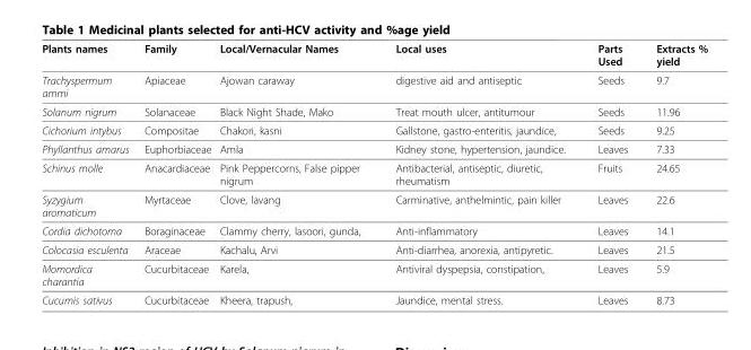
<table><thead><tr><td>Plants names</td><td>Family</td><td>Local/Vernacular Names</td><td>Local uses</td><td>Parts Used</td><td>Extracts % yield</td></tr></thead><tbody><tr><td>Trachyspermum ammi</td><td>Apiaceae</td><td>Ajowan caraway</td><td>digestive aid and antiseptic</td><td>Seeds</td><td>9.7</td></tr><tr><td>Solanum nigrum</td><td>Solanaceae</td><td>Black Night Shade, Mako</td><td>Treat mouth ulcer, antitumour</td><td>Seeds</td><td>11.96</td></tr><tr><td>Cichorium intybus</td><td>Compositae</td><td>Chakori, kasni</td><td>Gallstone, gastro-enteritis, jaundice,</td><td>Seeds</td><td>9.25</td></tr><tr><td>Phyllanthus amarus</td><td>Euphorbiaceae</td><td>Amla</td><td>Kidney stone, hypertension, jaundice.</td><td>Leaves</td><td>7.33</td></tr><tr><td>Schinus molle</td><td>Anacardiaceae</td><td>Pink Peppercorns, False pipper nigrum</td><td>Antibacterial, antiseptic, diuretic, rheumatism</td><td>Fruits</td><td>24.65</td></tr><tr><td>Syzygium aromaticum</td><td>Myrtaceae</td><td>Clove, lavang</td><td>Carminative, anthelmintic, pain killer</td><td>Leaves</td><td>22.6</td></tr><tr><td>Cordia dichotoma</td><td>Boraginaceae</td><td>Clammy cherry, lasoori, gunda,</td><td>Anti-inflammatory</td><td>Leaves</td><td>14.1</td></tr><tr><td>Colocasia esculenta</td><td>Araceae</td><td>Kachalu, Arvi</td><td>Anti-diarrhea, anorexia, antipyretic.</td><td>Leaves</td><td>21.5</td></tr><tr><td>Momordica charantia</td><td>Cucurbitaceae</td><td>Karela,</td><td>Antiviral dyspepsia, constipation,</td><td>Leaves</td><td>5.9</td></tr><tr><td>Cucumis sativus</td><td>Cucurbitaceae</td><td>Kheera, trapush,</td><td>Jaundice, mental stress.</td><td>Leaves</td><td>8.73</td></tr></tbody></table>